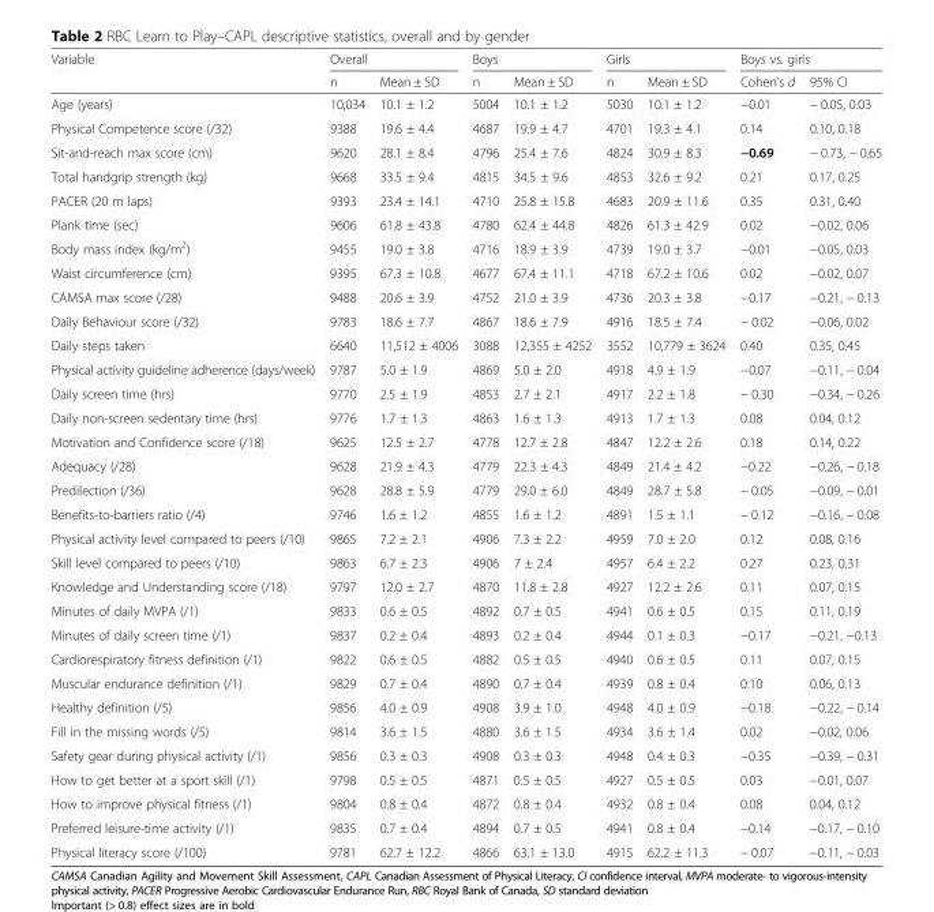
<table><thead><tr><td rowspan="2">Variable</td><td colspan="2">Overall</td><td colspan="2">Boys</td><td colspan="2">Girls</td><td colspan="2">Boys vs. girls</td></tr><tr><td>n</td><td>Mean ± SD</td><td>n</td><td>Mean ± SD</td><td>n</td><td>Mean ± SD</td><td>Cohen’s d</td><td>95% CI</td></tr></thead><tbody><tr><td>Age (years)</td><td>10,034</td><td>10.1 ± 1.2</td><td>5004</td><td>10.1 ± 1.2</td><td>5030</td><td>10.1 ± 1.2</td><td>−0.01</td><td>− 0.05, 0.03</td></tr><tr><td>Physical Competence score (/32)</td><td>9388</td><td>19.6 ± 4.4</td><td>4687</td><td>19.9 ± 4.7</td><td>4701</td><td>19.3 ± 4.1</td><td>0.14</td><td>0.10, 0.18</td></tr><tr><td>Sit-and-reach max score (cm)</td><td>9620</td><td>28.1 ± 8.4</td><td>4796</td><td>25.4 ± 7.6</td><td>4824</td><td>30.9 ± 8.3</td><td>−0.69</td><td>− 0.73, − 0.65</td></tr><tr><td>Total handgrip strength (kg)</td><td>9668</td><td>33.5 ± 9.4</td><td>4815</td><td>34.5 ± 9.6</td><td>4853</td><td>32.6 ± 9.2</td><td>0.21</td><td>0.17, 0.25</td></tr><tr><td>PACER (20 m laps)</td><td>9393</td><td>23.4 ± 14.1</td><td>4710</td><td>25.8 ± 15.8</td><td>4683</td><td>20.9 ± 11.6</td><td>0.35</td><td>0.31, 0.40</td></tr><tr><td>Plank time (sec)</td><td>9606</td><td>61.8 ± 43.8</td><td>4780</td><td>62.4 ± 44.8</td><td>4826</td><td>61.3 ± 42.9</td><td>0.02</td><td>−0.02, 0.06</td></tr><tr><td>Body mass index (kg/m<sup>2</sup>)</td><td>9455</td><td>19.0 ± 3.8</td><td>4716</td><td>18.9 ± 3.9</td><td>4739</td><td>19.0 ± 3.7</td><td>−0.01</td><td>−0.05, 0.03</td></tr><tr><td>Waist circumference (cm)</td><td>9395</td><td>67.3 ± 10.8</td><td>4677</td><td>67.4 ± 11.1</td><td>4718</td><td>67.2 ± 10.6</td><td>0.02</td><td>−0.02, 0.07</td></tr><tr><td>CAMSA max score (/28)</td><td>9488</td><td>20.6 ± 3.9</td><td>4752</td><td>21.0 ± 3.9</td><td>4736</td><td>20.3 ± 3.8</td><td>−0.17</td><td>−0.21, − 0.13</td></tr><tr><td>Daily Behaviour score (/32)</td><td>9783</td><td>18.6 ± 7.7</td><td>4867</td><td>18.6 ± 7.9</td><td>4916</td><td>18.5 ± 7.4</td><td>− 0.02</td><td>−0.06, 0.02</td></tr><tr><td>Daily steps taken</td><td>6640</td><td>11,512 ± 4006</td><td>3088</td><td>12,355 ± 4252</td><td>3552</td><td>10,779 ± 3624</td><td>0.40</td><td>0.35, 0.45</td></tr><tr><td>Physical activity guideline adherence (days/week)</td><td>9787</td><td>5.0 ± 1.9</td><td>4869</td><td>5.0 ± 2.0</td><td>4918</td><td>4.9 ± 1.9</td><td>−0.07</td><td>−0.11, − 0.04</td></tr><tr><td>Daily screen time (hrs)</td><td>9770</td><td>2.5 ± 1.9</td><td>4853</td><td>2.7 ± 2.1</td><td>4917</td><td>2.2 ± 1.8</td><td>− 0.30</td><td>−0.34, − 0.26</td></tr><tr><td>Daily non-screen sedentary time (hrs)</td><td>9776</td><td>1.7 ± 1.3</td><td>4863</td><td>1.6 ± 1.3</td><td>4913</td><td>1.7 ± 1.3</td><td>0.08</td><td>0.04, 0.12</td></tr><tr><td>Motivation and Confidence score (/18)</td><td>9625</td><td>12.5 ± 2.7</td><td>4778</td><td>12.7 ± 2.8</td><td>4847</td><td>12.2 ± 2.6</td><td>0.18</td><td>0.14, 0.22</td></tr><tr><td>Adequacy (/28)</td><td>9628</td><td>21.9 ± 4.3</td><td>4779</td><td>22.3 ± 4.3</td><td>4849</td><td>21.4 ± 4.2</td><td>−0.22</td><td>−0.26, − 0.18</td></tr><tr><td>Predilection (/36)</td><td>9628</td><td>28.8 ± 5.9</td><td>4779</td><td>29.0 ± 6.0</td><td>4849</td><td>28.7 ± 5.8</td><td>− 0.05</td><td>−0.09, − 0.01</td></tr><tr><td>Benefits-to-barriers ratio (/4)</td><td>9746</td><td>1.6 ± 1.2</td><td>4855</td><td>1.6 ± 1.2</td><td>4891</td><td>1.5 ± 1.1</td><td>− 0.12</td><td>−0.16, − 0.08</td></tr><tr><td>Physical activity level compared to peers (/10)</td><td>9865</td><td>7.2 ± 2.1</td><td>4906</td><td>7.3 ± 2.2</td><td>4959</td><td>7.0 ± 2.0</td><td>0.12</td><td>0.08, 0.16</td></tr><tr><td>Skill level compared to peers (/10)</td><td>9863</td><td>6.7 ± 2.3</td><td>4906</td><td>7 ± 2.4</td><td>4957</td><td>6.4 ± 2.2</td><td>0.27</td><td>0.23, 0.31</td></tr><tr><td>Knowledge and Understanding score (/18)</td><td>9797</td><td>12.0 ± 2.7</td><td>4870</td><td>11.8 ± 2.8</td><td>4927</td><td>12.2 ± 2.6</td><td>0.11</td><td>0.07, 0.15</td></tr><tr><td>Minutes of daily MVPA (/1)</td><td>9833</td><td>0.6 ± 0.5</td><td>4892</td><td>0.7 ± 0.5</td><td>4941</td><td>0.6 ± 0.5</td><td>0.15</td><td>0.11, 0.19</td></tr><tr><td>Minutes of daily screen time (/1)</td><td>9837</td><td>0.2 ± 0.4</td><td>4893</td><td>0.2 ± 0.4</td><td>4944</td><td>0.1 ± 0.3</td><td>−0.17</td><td>−0.21, −0.13</td></tr><tr><td>Cardiorespiratory fitness definition (/1)</td><td>9822</td><td>0.6 ± 0.5</td><td>4882</td><td>0.5 ± 0.5</td><td>4940</td><td>0.6 ± 0.5</td><td>0.11</td><td>0.07, 0.15</td></tr><tr><td>Muscular endurance definition (/1)</td><td>9829</td><td>0.7 ± 0.4</td><td>4890</td><td>0.7 ± 0.4</td><td>4939</td><td>0.8 ± 0.4</td><td>0.10</td><td>0.06, 0.13</td></tr><tr><td>Healthy definition (/5)</td><td>9856</td><td>4.0 ± 0.9</td><td>4908</td><td>3.9 ± 1.0</td><td>4948</td><td>4.0 ± 0.9</td><td>−0.18</td><td>−0.22, − 0.14</td></tr><tr><td>Fill in the missing words (/5)</td><td>9814</td><td>3.6 ± 1.5</td><td>4880</td><td>3.6 ± 1.5</td><td>4934</td><td>3.6 ± 1.4</td><td>0.02</td><td>−0.02, 0.06</td></tr><tr><td>Safety gear during physical activity (/1)</td><td>9856</td><td>0.3 ± 0.3</td><td>4908</td><td>0.3 ± 0.3</td><td>4948</td><td>0.4 ± 0.3</td><td>−0.35</td><td>−0.39, − 0.31</td></tr><tr><td>How to get better at a sport skill (/1)</td><td>9798</td><td>0.5 ± 0.5</td><td>4871</td><td>0.5 ± 0.5</td><td>4927</td><td>0.5 ± 0.5</td><td>0.03</td><td>−0.01, 0.07</td></tr><tr><td>How to improve physical fitness (/1)</td><td>9804</td><td>0.8 ± 0.4</td><td>4872</td><td>0.8 ± 0.4</td><td>4932</td><td>0.8 ± 0.4</td><td>0.08</td><td>0.04, 0.12</td></tr><tr><td>Preferred leisure-time activity (/1)</td><td>9835</td><td>0.7 ± 0.4</td><td>4894</td><td>0.7 ± 0.5</td><td>4941</td><td>0.8 ± 0.4</td><td>−0.14</td><td>−0.17, − 0.10</td></tr><tr><td>Physical literacy score (/100)</td><td>9781</td><td>62.7 ± 12.2</td><td>4866</td><td>63.1 ± 13.0</td><td>4915</td><td>62.2 ± 11.3</td><td>− 0.07</td><td>−0.11, − 0.03</td></tr></tbody></table>